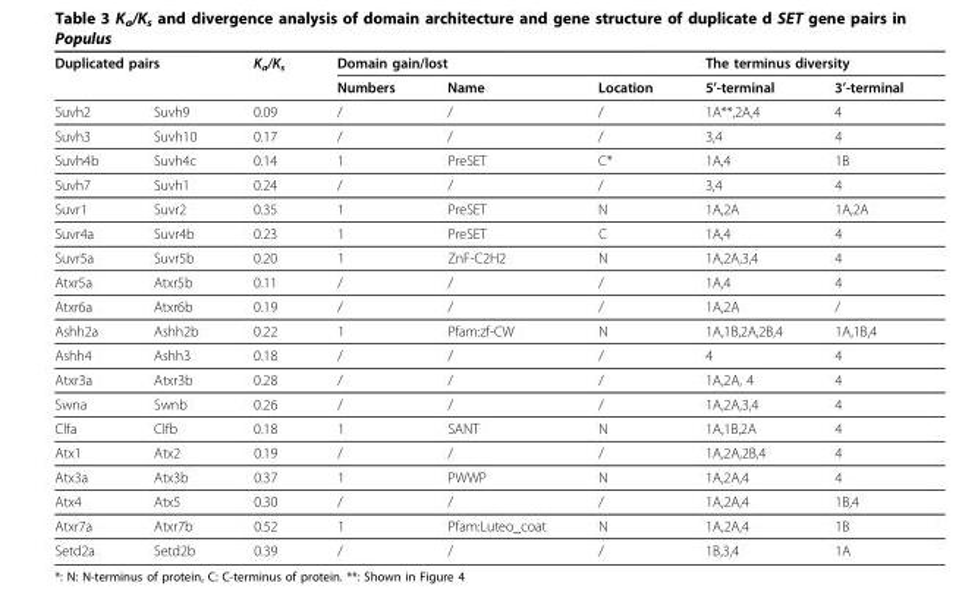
<table><thead><tr><td colspan="2">Duplicated pairs</td><td rowspan="2">K<sub>a</sub>/K<sub>s</sub></td><td colspan="3">Domain gain/lost</td><td colspan="2">The terminus diversity</td></tr><tr><td></td><td></td><td>Numbers</td><td>Name</td><td>Location</td><td>5’-terminal</td><td>3’-terminal</td></tr></thead><tbody><tr><td>Suvh2</td><td>Suvh9</td><td>0.09</td><td>/</td><td>/</td><td>/</td><td>1A**,2A,4</td><td>4</td></tr><tr><td>Suvh3</td><td>Suvh10</td><td>0.17</td><td>/</td><td>/</td><td>/</td><td>3,4</td><td>4</td></tr><tr><td>Suvh4b</td><td>Suvh4c</td><td>0.14</td><td>1</td><td>PreSET</td><td>C*</td><td>1A,4</td><td>1B</td></tr><tr><td>Suvh7</td><td>Suvh1</td><td>0.24</td><td>/</td><td>/</td><td>/</td><td>3,4</td><td>4</td></tr><tr><td>Suvr1</td><td>Suvr2</td><td>0.35</td><td>1</td><td>PreSET</td><td>N</td><td>1A,2A</td><td>1A,2A</td></tr><tr><td>Suvr4a</td><td>Suvr4b</td><td>0.23</td><td>1</td><td>PreSET</td><td>C</td><td>1A,4</td><td>4</td></tr><tr><td>Suvr5a</td><td>Suvr5b</td><td>0.20</td><td>1</td><td>ZnF-C2H2</td><td>N</td><td>1A,2A,3,4</td><td>4</td></tr><tr><td>Atxr5a</td><td>Atxr5b</td><td>0.11</td><td>/</td><td>/</td><td>/</td><td>1A,4</td><td>4</td></tr><tr><td>Atxr6a</td><td>Atxr6b</td><td>0.19</td><td>/</td><td>/</td><td>/</td><td>1A,2A</td><td>/</td></tr><tr><td>Ashh2a</td><td>Ashh2b</td><td>0.22</td><td>1</td><td>Pfam:zf-CW</td><td>N</td><td>1A,1B,2A,2B,4</td><td>1A,1B,4</td></tr><tr><td>Ashh4</td><td>Ashh3</td><td>0.18</td><td>/</td><td>/</td><td>/</td><td>4</td><td>4</td></tr><tr><td>Atxr3a</td><td>Atxr3b</td><td>0.28</td><td>/</td><td>/</td><td>/</td><td>1A,2A, 4</td><td>4</td></tr><tr><td>Swna</td><td>Swnb</td><td>0.26</td><td>/</td><td>/</td><td>/</td><td>1A,2A,3,4</td><td>4</td></tr><tr><td>Clfa</td><td>Clfb</td><td>0.18</td><td>1</td><td>SANT</td><td>N</td><td>1A,1B,2A</td><td>4</td></tr><tr><td>Atx1</td><td>Atx2</td><td>0.19</td><td>/</td><td>/</td><td>/</td><td>1A,2A,2B,4</td><td>4</td></tr><tr><td>Atx3a</td><td>Atx3b</td><td>0.37</td><td>1</td><td>PWWP</td><td>N</td><td>1A,2A,4</td><td>4</td></tr><tr><td>Atx4</td><td>Atx5</td><td>0.30</td><td>/</td><td>/</td><td>/</td><td>1A,2A,4</td><td>1B,4</td></tr><tr><td>Atxr7a</td><td>Atxr7b</td><td>0.52</td><td>1</td><td>Pfam:Luteo_coat</td><td>N</td><td>1A,2A,4</td><td>1B</td></tr><tr><td>Setd2a</td><td>Setd2b</td><td>0.39</td><td>/</td><td>/</td><td>/</td><td>1B,3,4</td><td>1A</td></tr></tbody></table>